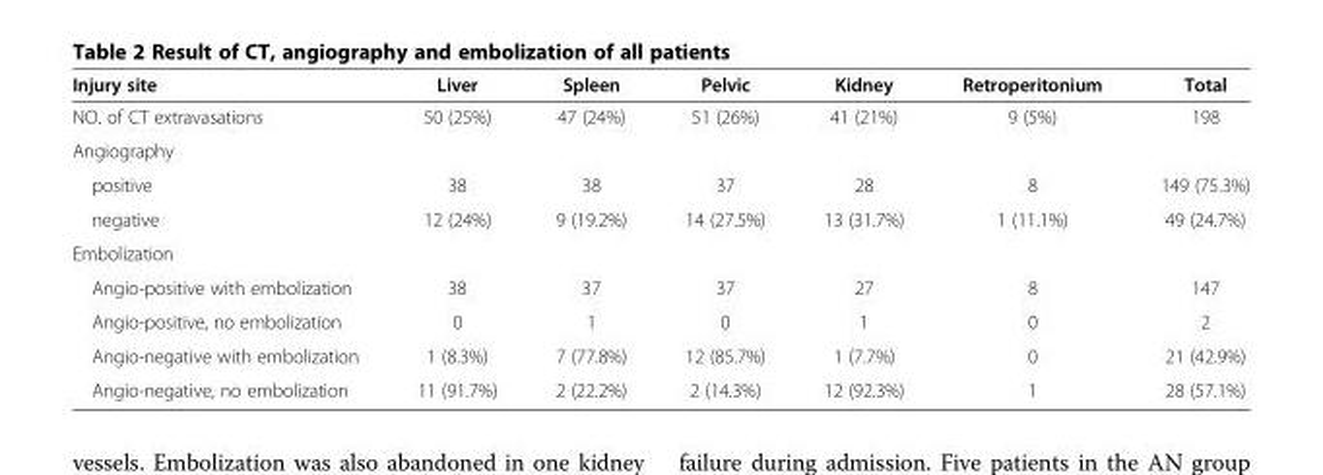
<table><thead><tr><td>Injury site</td><td>Liver</td><td>Spleen</td><td>Pelvic</td><td>Kidney</td><td>Retroperitonium</td><td>Total</td></tr></thead><tbody><tr><td>NO. of CT extravasations</td><td>50 (25%)</td><td>47 (24%)</td><td>51 (26%)</td><td>41 (21%)</td><td>9 (5%)</td><td>198</td></tr><tr><td colspan="7">Angiography</td></tr><tr><td>positive</td><td>38</td><td>38</td><td>37</td><td>28</td><td>8</td><td>149 (75.3%)</td></tr><tr><td>negative</td><td>12 (24%)</td><td>9 (19.2%)</td><td>14 (27.5%)</td><td>13 (31.7%)</td><td>1 (11.1%)</td><td>49 (24.7%)</td></tr><tr><td colspan="7">Embolization</td></tr><tr><td>Angio-positive with embolization</td><td>38</td><td>37</td><td>37</td><td>27</td><td>8</td><td>147</td></tr><tr><td>Angio-positive, no embolization</td><td>0</td><td>1</td><td>0</td><td>1</td><td>0</td><td>2</td></tr><tr><td>Angio-negative with embolization</td><td>1 (8.3%)</td><td>7 (77.8%)</td><td>12 (85.7%)</td><td>1 (7.7%)</td><td>0</td><td>21 (42.9%)</td></tr><tr><td>Angio-negative, no embolization</td><td>11 (91.7%)</td><td>2 (22.2%)</td><td>2 (14.3%)</td><td>12 (92.3%)</td><td>1</td><td>28 (57.1%)</td></tr></tbody></table>